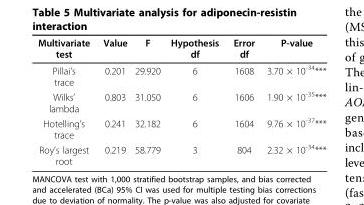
<table><thead><tr><td>Multivariate test</td><td>Value</td><td>F</td><td>Hypothesis df</td><td>Error df</td><td>P-value</td></tr></thead><tbody><tr><td>Pillai’s trace</td><td>0.201</td><td>29.920</td><td>6</td><td>1608</td><td>3.70 × 10<sup>-34</sup>***</td></tr><tr><td>Wilks’ lambda</td><td>0.803</td><td>31.050</td><td>6</td><td>1606</td><td>1.90 × 10<sup>-35</sup>***</td></tr><tr><td>Hotelling’s trace</td><td>0.241</td><td>32.182</td><td>6</td><td>1604</td><td>9.76 × 10<sup>-37</sup>***</td></tr><tr><td>Roy’s largest root</td><td>0.219</td><td>58.779</td><td>3</td><td>804</td><td>2.32 × 10<sup>-34</sup>***</td></tr></tbody></table>